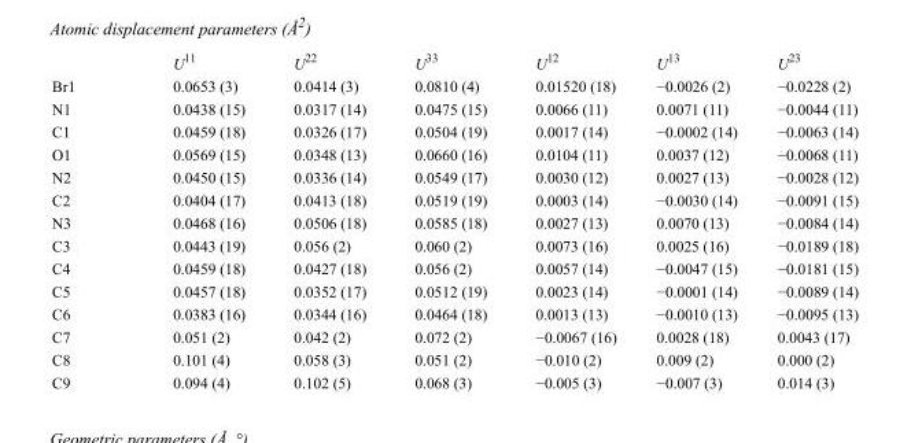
<table><thead><tr><td></td><td>U<sup>11</sup></td><td>U<sup>22</sup></td><td>U<sup>33</sup></td><td>U<sup>12</sup></td><td>U<sup>13</sup></td><td>U<sup>23</sup></td></tr></thead><tbody><tr><td>Br1</td><td>0.0653 (3)</td><td>0.0414 (3)</td><td>0.0810 (4)</td><td>0.01520 (18)</td><td>−0.0026 (2)</td><td>−0.0228 (2)</td></tr><tr><td>N1</td><td>0.0438 (15)</td><td>0.0317 (14)</td><td>0.0475 (15)</td><td>0.0066 (11)</td><td>0.0071 (11)</td><td>−0.0044 (11)</td></tr><tr><td>C1</td><td>0.0459 (18)</td><td>0.0326 (17)</td><td>0.0504 (19)</td><td>0.0017 (14)</td><td>−0.0002 (14)</td><td>−0.0063 (14)</td></tr><tr><td>O1</td><td>0.0569 (15)</td><td>0.0348 (13)</td><td>0.0660 (16)</td><td>0.0104 (11)</td><td>0.0037 (12)</td><td>−0.0068 (11)</td></tr><tr><td>N2</td><td>0.0450 (15)</td><td>0.0336 (14)</td><td>0.0549 (17)</td><td>0.0030 (12)</td><td>0.0027 (13)</td><td>−0.0028 (12)</td></tr><tr><td>C2</td><td>0.0404 (17)</td><td>0.0413 (18)</td><td>0.0519 (19)</td><td>0.0003 (14)</td><td>−0.0030 (14)</td><td>−0.0091 (15)</td></tr><tr><td>N3</td><td>0.0468 (16)</td><td>0.0506 (18)</td><td>0.0585 (18)</td><td>0.0027 (13)</td><td>0.0070 (13)</td><td>−0.0084 (14)</td></tr><tr><td>C3</td><td>0.0443 (19)</td><td>0.056 (2)</td><td>0.060 (2)</td><td>0.0073 (16)</td><td>0.0025 (16)</td><td>−0.0189 (18)</td></tr><tr><td>C4</td><td>0.0459 (18)</td><td>0.0427 (18)</td><td>0.056 (2)</td><td>0.0057 (14)</td><td>−0.0047 (15)</td><td>−0.0181 (15)</td></tr><tr><td>C5</td><td>0.0457 (18)</td><td>0.0352 (17)</td><td>0.0512 (19)</td><td>0.0023 (14)</td><td>−0.0001 (14)</td><td>−0.0089 (14)</td></tr><tr><td>C6</td><td>0.0383 (16)</td><td>0.0344 (16)</td><td>0.0464 (18)</td><td>0.0013 (13)</td><td>−0.0010 (13)</td><td>−0.0095 (13)</td></tr><tr><td>C7</td><td>0.051 (2)</td><td>0.042 (2)</td><td>0.072 (2)</td><td>−0.0067 (16)</td><td>0.0028 (18)</td><td>0.0043 (17)</td></tr><tr><td>C8</td><td>0.101 (4)</td><td>0.058 (3)</td><td>0.051 (2)</td><td>−0.010 (2)</td><td>0.009 (2)</td><td>0.000 (2)</td></tr><tr><td>C9</td><td>0.094 (4)</td><td>0.102 (5)</td><td>0.068 (3)</td><td>−0.005 (3)</td><td>−0.007 (3)</td><td>0.014 (3)</td></tr></tbody></table>